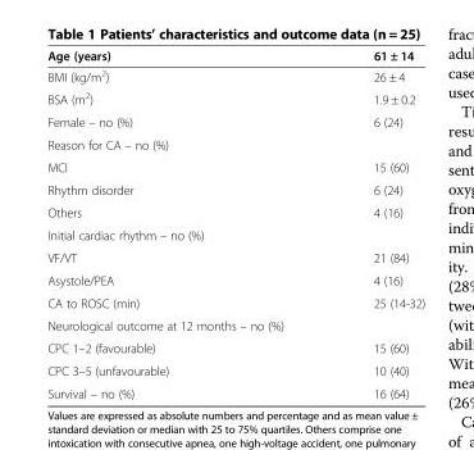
<table><thead><tr><td>Age (years)</td><td>61 ± 14</td></tr></thead><tbody><tr><td>BMI (kg/m<sup>2</sup>)</td><td>26 ± 4</td></tr><tr><td>BSA (m<sup>2</sup>)</td><td>1.9 ± 0.2</td></tr><tr><td>Female – no (%)</td><td>6 (24)</td></tr><tr><td colspan="2">Reason for CA – no (%)</td></tr><tr><td>MCI</td><td>15 (60)</td></tr><tr><td>Rhythm disorder</td><td>6 (24)</td></tr><tr><td>Others</td><td>4 (16)</td></tr><tr><td colspan="2">Initial cardiac rhythm – no (%)</td></tr><tr><td>VF/VT</td><td>21 (84)</td></tr><tr><td>Asystole/PEA</td><td>4 (16)</td></tr><tr><td>CA to ROSC (min)</td><td>25 (14-32)</td></tr><tr><td colspan="2">Neurological outcome at 12 months – no (%)</td></tr><tr><td>CPC 1–2 (favourable)</td><td>15 (60)</td></tr><tr><td>CPC 3–5 (unfavourable)</td><td>10 (40)</td></tr><tr><td>Survival – no (%)</td><td>16 (64)</td></tr></tbody></table>